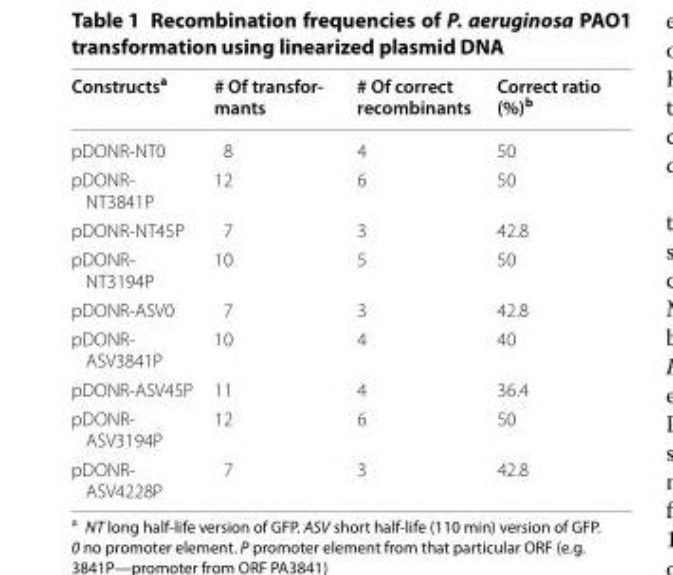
<table><thead><tr><td>Constructs<sup>a</sup></td><td># Of transfor- mants</td><td># Of correct recombinants</td><td>Correct ratio (%)<sup>b</sup></td></tr></thead><tbody><tr><td>pDONR-NT0</td><td>8</td><td>4</td><td>50</td></tr><tr><td>pDONR- NT3841P</td><td>12</td><td>6</td><td>50</td></tr><tr><td>pDONR-NT45P</td><td>7</td><td>3</td><td>42.8</td></tr><tr><td>pDONR- NT3194P</td><td>10</td><td>5</td><td>50</td></tr><tr><td>pDONR-ASV0</td><td>7</td><td>3</td><td>42.8</td></tr><tr><td>pDONR- ASV3841P</td><td>10</td><td>4</td><td>40</td></tr><tr><td>pDONR-ASV45P</td><td>11</td><td>4</td><td>36.4</td></tr><tr><td>pDONR- ASV3194P</td><td>12</td><td>6</td><td>50</td></tr><tr><td>pDONR- ASV4228P</td><td>7</td><td>3</td><td>42.8</td></tr></tbody></table>